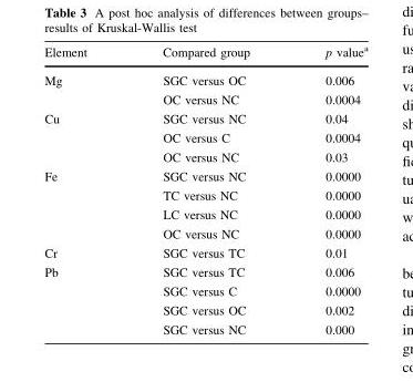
<table><thead><tr><td>Element</td><td>Compared group</td><td>p value<sup>a</sup></td></tr></thead><tbody><tr><td rowspan="2">Mg</td><td>SGC versus OC</td><td>0.006</td></tr><tr><td>OC versus NC</td><td>0.0004</td></tr><tr><td rowspan="3">Cu</td><td>SGC versus NC</td><td>0.04</td></tr><tr><td>OC versus C</td><td>0.0004</td></tr><tr><td>OC versus NC</td><td>0.03</td></tr><tr><td rowspan="4">Fe</td><td>SGC versus NC</td><td>0.0000</td></tr><tr><td>TC versus NC</td><td>0.0000</td></tr><tr><td>LC versus NC</td><td>0.0000</td></tr><tr><td>OC versus NC</td><td>0.0000</td></tr><tr><td>Cr</td><td>SGC versus TC</td><td>0.01</td></tr><tr><td rowspan="4">Pb</td><td>SGC versus TC</td><td>0.006</td></tr><tr><td>SGC versus C</td><td>0.0000</td></tr><tr><td>SGC versus OC</td><td>0.002</td></tr><tr><td>SGC versus NC</td><td>0.000</td></tr></tbody></table>